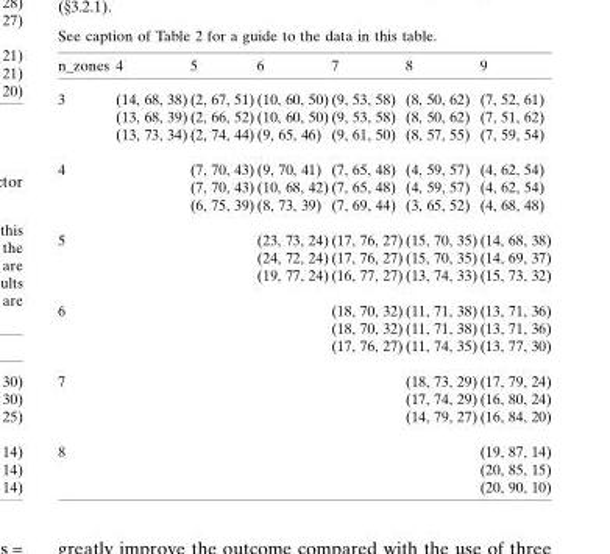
<table><thead><tr><td>n_zones</td><td>4</td><td>5</td><td>6</td><td>7</td><td>8</td><td>9</td></tr></thead><tbody><tr><td rowspan="3">3</td><td>(14, 68, 38)</td><td>(2, 67, 51)</td><td>(10, 60, 50)</td><td>(9, 53, 58)</td><td>(8, 50, 62)</td><td>(7, 52, 61)</td></tr><tr><td>(13, 68, 39)</td><td>(2, 66, 52)</td><td>(10, 60, 50)</td><td>(9, 53, 58)</td><td>(8, 50, 62)</td><td>(7, 51, 62)</td></tr><tr><td>(13, 73, 34)</td><td>(2, 74, 44)</td><td>(9, 65, 46)</td><td>(9, 61, 50)</td><td>(8, 57, 55)</td><td>(7, 59, 54)</td></tr><tr><td rowspan="3">4</td><td rowspan="3"></td><td>(7, 70, 43)</td><td>(9, 70, 41)</td><td>(7, 65, 48)</td><td>(4, 59, 57)</td><td>(4, 62, 54)</td></tr><tr><td>(7, 70, 43)</td><td>(10, 68, 42)</td><td>(7, 65, 48)</td><td>(4, 59, 57)</td><td>(4, 62, 54)</td></tr><tr><td>(6, 75, 39)</td><td>(8, 73, 39)</td><td>(7, 69, 44)</td><td>(3, 65, 52)</td><td>(4, 68, 48)</td></tr><tr><td rowspan="3">5</td><td rowspan="3"></td><td rowspan="3"></td><td>(23, 73, 24)</td><td>(17, 76, 27)</td><td>(15, 70, 35)</td><td>(14, 68, 38)</td></tr><tr><td>(24, 72, 24)</td><td>(17, 76, 27)</td><td>(15, 70, 35)</td><td>(14, 69, 37)</td></tr><tr><td>(19, 77, 24)</td><td>(16, 77, 27)</td><td>(13, 74, 33)</td><td>(15, 73, 32)</td></tr><tr><td rowspan="3">6</td><td rowspan="3"></td><td rowspan="3"></td><td rowspan="3"></td><td>(18, 70, 32)</td><td>(11, 71, 38)</td><td>(13, 71, 36)</td></tr><tr><td>(18, 70, 32)</td><td>(11, 71, 38)</td><td>(13, 71, 36)</td></tr><tr><td>(17, 76, 27)</td><td>(11, 74, 35)</td><td>(13, 77, 30)</td></tr><tr><td rowspan="3">7</td><td rowspan="3"></td><td rowspan="3"></td><td rowspan="3"></td><td rowspan="3"></td><td>(18, 73, 29)</td><td>(17, 79, 24)</td></tr><tr><td>(17, 74, 29)</td><td>(16, 80, 24)</td></tr><tr><td>(14, 79, 27)</td><td>(16, 84, 20)</td></tr><tr><td rowspan="3">8</td><td rowspan="3"></td><td rowspan="3"></td><td rowspan="3"></td><td rowspan="3"></td><td rowspan="3"></td><td>(19, 87, 14)</td></tr><tr><td>(20, 85, 15)</td></tr><tr><td>(20, 90, 10)</td></tr></tbody></table>